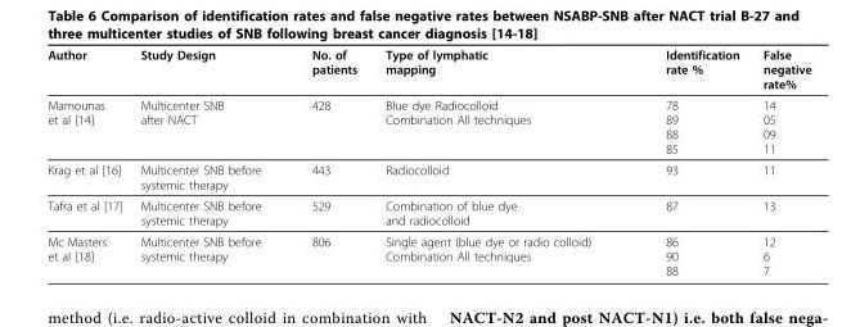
<table><thead><tr><td>Author</td><td>Study Design</td><td>No. of patients</td><td>Type of lymphatic mapping</td><td>Identification rate %</td><td>False negative rate%</td></tr></thead><tbody><tr><td>Mamounas et al [14]</td><td>Multicenter SNB after NACT</td><td>428</td><td>Blue dye Radiocolloid Combination All techniques</td><td>78 89 88 85</td><td>14 05 09 11</td></tr><tr><td>Krag et al [16]</td><td>Multicenter SNB before systemic therapy</td><td>443</td><td>Radiocolloid</td><td>93</td><td>11</td></tr><tr><td>Tafra et al [17]</td><td>Multicenter SNB before systemic therapy</td><td>529</td><td>Combination of blue dye and radiocolloid</td><td>87</td><td>13</td></tr><tr><td>Mc Masters et al [18]</td><td>Multicenter SNB before systemic therapy</td><td>806</td><td>Single agent (blue dye or radio colloid) Combination All techniques</td><td>86 90 88</td><td>12 6 7</td></tr></tbody></table>